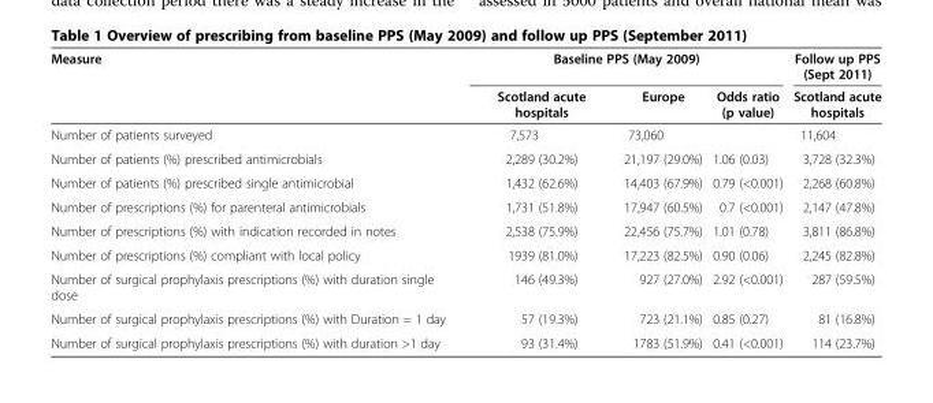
<table><thead><tr><td rowspan="2">Measure</td><td colspan="3">Baseline PPS (May 2009)</td><td rowspan="2">Follow up PPS (Sept 2011) Scotland acute hospitals</td></tr><tr><td>Scotland acute hospitals</td><td>Europe</td><td>Odds ratio (p value)</td></tr></thead><tbody><tr><td>Number of patients surveyed</td><td>7,573</td><td>73,060</td><td></td><td>11,604</td></tr><tr><td>Number of patients (%) prescribed antimicrobials</td><td>2,289 (30.2%)</td><td>21,197 (29.0%)</td><td>1.06 (0.03)</td><td>3,728 (32.3%)</td></tr><tr><td>Number of patients (%) prescribed single antimicrobial</td><td>1,432 (62.6%)</td><td>14,403 (67.9%)</td><td>0.79 (&lt;0.001)</td><td>2,268 (60.8%)</td></tr><tr><td>Number of prescriptions (%) for parenteral antimicrobials</td><td>1,731 (51.8%)</td><td>17,947 (60.5%)</td><td>0.7 (&lt;0.001)</td><td>2,147 (47.8%)</td></tr><tr><td>Number of prescriptions (%) with indication recorded in notes</td><td>2,538 (75.9%)</td><td>22,456 (75.7%)</td><td>1.01 (0.78)</td><td>3,811 (86.8%)</td></tr><tr><td>Number of prescriptions (%) compliant with local policy</td><td>1939 (81.0%)</td><td>17,223 (82.5%)</td><td>0.90 (0.06)</td><td>2,245 (82.8%)</td></tr><tr><td>Number of surgical prophylaxis prescriptions (%) with duration single dose</td><td>146 (49.3%)</td><td>927 (27.0%)</td><td>2.92 (&lt;0.001)</td><td>287 (59.5%)</td></tr><tr><td>Number of surgical prophylaxis prescriptions (%) with Duration = 1 day</td><td>57 (19.3%)</td><td>723 (21.1%)</td><td>0.85 (0.27)</td><td>81 (16.8%)</td></tr><tr><td>Number of surgical prophylaxis prescriptions (%) with duration &gt;1 day</td><td>93 (31.4%)</td><td>1783 (51.9%)</td><td>0.41 (&lt;0.001)</td><td>114 (23.7%)</td></tr></tbody></table>